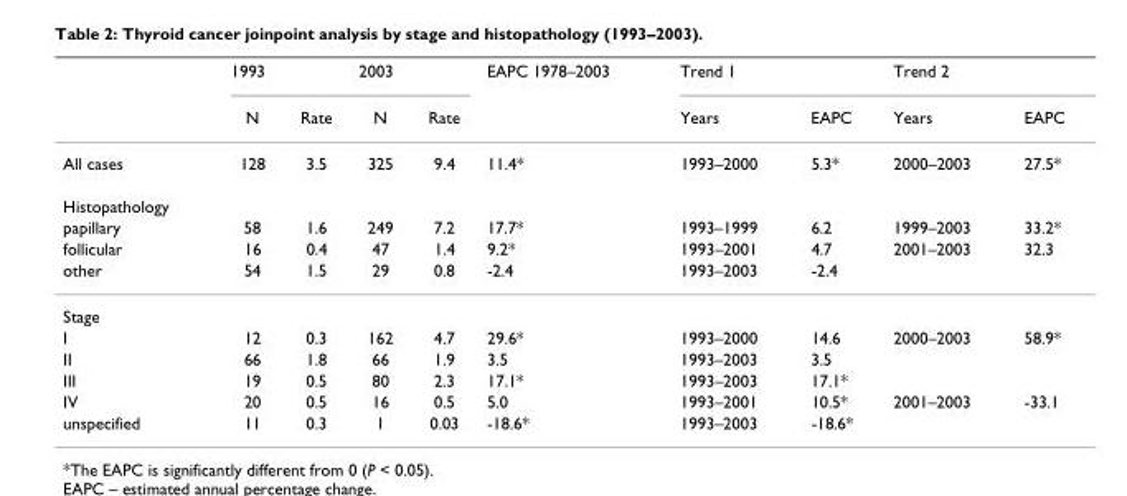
<table><thead><tr><td rowspan="2"></td><td colspan="2">1993</td><td colspan="2">2003</td><td rowspan="2">EAPC 1978–2003</td><td colspan="2">Trend 1</td><td colspan="2">Trend 2</td></tr><tr><td>N</td><td>Rate</td><td>N</td><td>Rate</td><td>Years</td><td>EAPC</td><td>Years</td><td>EAPC</td></tr></thead><tbody><tr><td>All cases</td><td>128</td><td>3.5</td><td>325</td><td>9.4</td><td>11.4*</td><td>1993–2000</td><td>5.3*</td><td>2000–2003</td><td>27.5*</td></tr><tr><td colspan="10">Histopathology</td></tr><tr><td>papillary</td><td>58</td><td>1.6</td><td>249</td><td>7.2</td><td>17.7*</td><td>1993–1999</td><td>6.2</td><td>1999–2003</td><td>33.2*</td></tr><tr><td>follicular</td><td>16</td><td>0.4</td><td>47</td><td>1.4</td><td>9.2*</td><td>1993–2001</td><td>4.7</td><td>2001–2003</td><td>32.3</td></tr><tr><td>other</td><td>54</td><td>1.5</td><td>29</td><td>0.8</td><td>-2.4</td><td>1993–2003</td><td>-2.4</td><td></td><td></td></tr><tr><td colspan="10">Stage</td></tr><tr><td>I</td><td>12</td><td>0.3</td><td>162</td><td>4.7</td><td>29.6*</td><td>1993–2000</td><td>14.6</td><td>2000–2003</td><td>58.9*</td></tr><tr><td>II</td><td>66</td><td>1.8</td><td>66</td><td>1.9</td><td>3.5</td><td>1993–2003</td><td>3.5</td><td></td><td></td></tr><tr><td>III</td><td>19</td><td>0.5</td><td>80</td><td>2.3</td><td>17.1*</td><td>1993–2003</td><td>17.1*</td><td></td><td></td></tr><tr><td>IV</td><td>20</td><td>0.5</td><td>16</td><td>0.5</td><td>5.0</td><td>1993–2001</td><td>10.5*</td><td>2001–2003</td><td>-33.1</td></tr><tr><td>unspecified</td><td>11</td><td>0.3</td><td>1</td><td>0.03</td><td>-18.6*</td><td>1993–2003</td><td>-18.6*</td><td></td><td></td></tr></tbody></table>